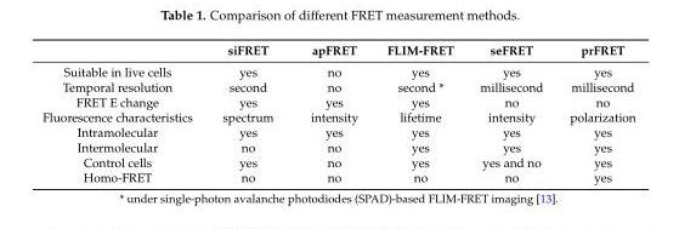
<table><thead><tr><td></td><td>siFRET</td><td>apFRET</td><td>FLIM-FRET</td><td>seFRET</td><td>prFRET</td></tr></thead><tbody><tr><td>Suitable in live cells</td><td>yes</td><td>no</td><td>yes</td><td>yes</td><td>yes</td></tr><tr><td>Temporal resolution</td><td>second</td><td>no</td><td>second *</td><td>millisecond</td><td>millisecond</td></tr><tr><td>FRET E change</td><td>yes</td><td>yes</td><td>yes</td><td>no</td><td>no</td></tr><tr><td>Fluorescence characteristics</td><td>spectrum</td><td>intensity</td><td>lifetime</td><td>intensity</td><td>polarization</td></tr><tr><td>Intramolecular</td><td>yes</td><td>yes</td><td>yes</td><td>yes</td><td>yes</td></tr><tr><td>Intermolecular</td><td>no</td><td>no</td><td>yes</td><td>yes</td><td>yes</td></tr><tr><td>Control cells</td><td>yes</td><td>no</td><td>yes</td><td>yes and no</td><td>yes</td></tr><tr><td>Homo-FRET</td><td>no</td><td>no</td><td>no</td><td>no</td><td>yes</td></tr></tbody></table>